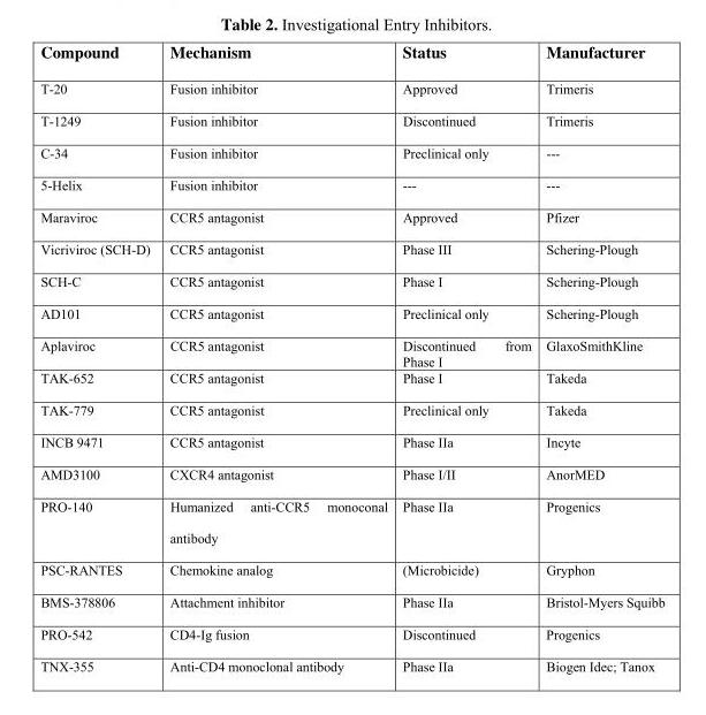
<table><thead><tr><td>Compound</td><td>Mechanism</td><td>Status</td><td>Manufacturer</td></tr></thead><tbody><tr><td>T-20</td><td>Fusion inhibitor</td><td>Approved</td><td>Trimeris</td></tr><tr><td>T-1249</td><td>Fusion inhibitor</td><td>Discontinued</td><td>Trimeris</td></tr><tr><td>C-34</td><td>Fusion inhibitor</td><td>Preclinical only</td><td>---</td></tr><tr><td>5-Helix</td><td>Fusion inhibitor</td><td>---</td><td>---</td></tr><tr><td>Maraviroc</td><td>CCR5 antagonist</td><td>Approved</td><td>Pfizer</td></tr><tr><td>Vicriviroc (SCH-D)</td><td>CCR5 antagonist</td><td>Phase III</td><td>Schering-Plough</td></tr><tr><td>SCH-C</td><td>CCR5 antagonist</td><td>Phase I</td><td>Schering-Plough</td></tr><tr><td>AD101</td><td>CCR5 antagonist</td><td>Preclinical only</td><td>Schering-Plough</td></tr><tr><td>Aplaviroc</td><td>CCR5 antagonist</td><td>Discontinued from Phase I</td><td>GlaxoSmithKline</td></tr><tr><td>TAK-652</td><td>CCR5 antagonist</td><td>Phase I</td><td>Takeda</td></tr><tr><td>TAK-779</td><td>CCR5 antagonist</td><td>Preclinical only</td><td>Takeda</td></tr><tr><td>INCB 9471</td><td>CCR5 antagonist</td><td>Phase IIa</td><td>Incyte</td></tr><tr><td>AMD3100</td><td>CXCR4 antagonist</td><td>Phase I/II</td><td>AnorMED</td></tr><tr><td>PRO-140</td><td>Humanized anti-CCR5 monoconal antibody</td><td>Phase IIa</td><td>Progenics</td></tr><tr><td>PSC-RANTES</td><td>Chemokine analog</td><td>(Microbicide)</td><td>Gryphon</td></tr><tr><td>BMS-378806</td><td>Attachment inhibitor</td><td>Phase IIa</td><td>Bristol-Myers Squibb</td></tr><tr><td>PRO-542</td><td>CD4-Ig fusion</td><td>Discontinued</td><td>Progenics</td></tr><tr><td>TNX-355</td><td>Anti-CD4 monoclonal antibody</td><td>Phase IIa</td><td>Biogen Idec; Tanox</td></tr></tbody></table>